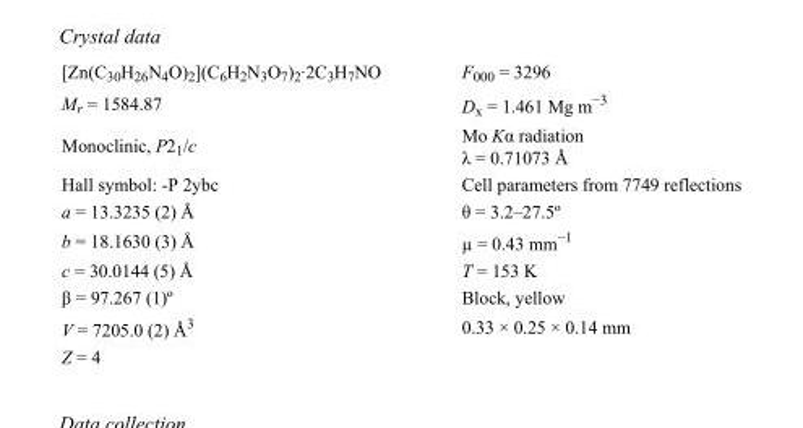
<table><tbody><tr><td>[Zn(C<sub>30</sub>H<sub>26</sub>N<sub>4</sub>O)<sub>2</sub>](C<sub>6</sub>H<sub>2</sub>N<sub>3</sub>O<sub>7</sub>)<sub>2</sub>·2C<sub>3</sub>H<sub>7</sub>NO</td><td>F000 = 3296</td></tr><tr><td>M<sub>r</sub> = 1584.87</td><td>D<sub>x</sub> = 1.461 Mg m<sup>−3</sup></td></tr><tr><td>Monoclinic, P2<sub>1</sub>/c</td><td>Mo Kα radiation λ = 0.71073 Å</td></tr><tr><td>Hall symbol: -P 2ybc</td><td>Cell parameters from 7749 reflections</td></tr><tr><td>a = 13.3235 (2) Å</td><td>θ = 3.2–27.5º</td></tr><tr><td>b = 18.1630 (3) Å</td><td>µ = 0.43 mm<sup>−1</sup></td></tr><tr><td>c = 30.0144 (5) Å</td><td>T = 153 K</td></tr><tr><td>β = 97.267 (1)º</td><td>Block, yellow</td></tr><tr><td>V = 7205.0 (2) Å<sup>3</sup></td><td>0.33 × 0.25 × 0.14 mm</td></tr><tr><td>Z = 4</td><td></td></tr></tbody></table>